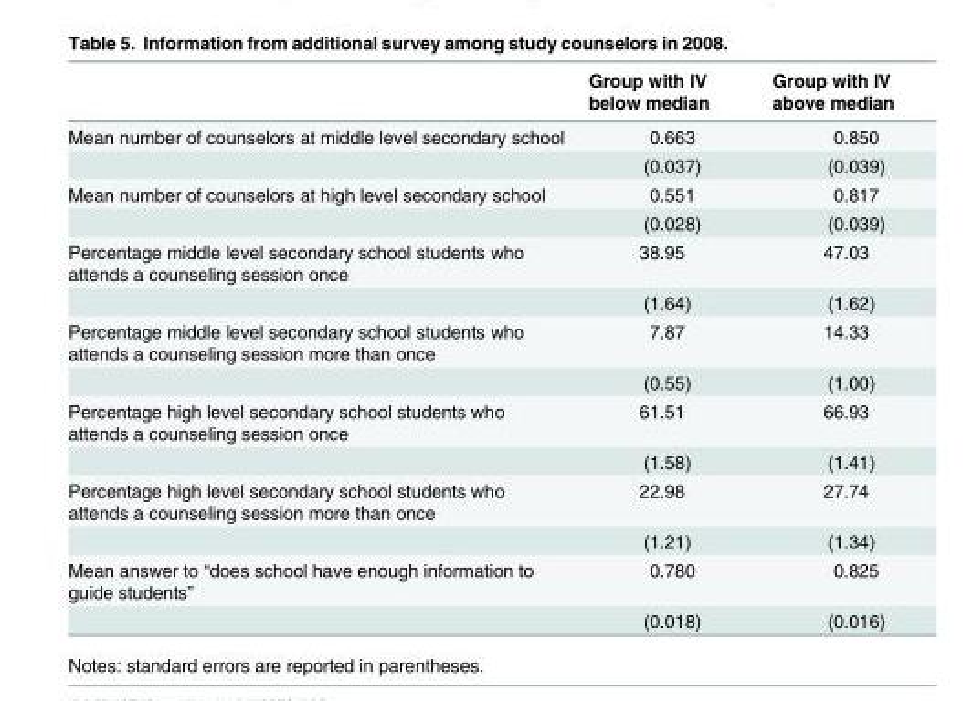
<table><thead><tr><td></td><td>Group with IV below median</td><td>Group with IV above median</td></tr></thead><tbody><tr><td rowspan="2">Mean number of counselors at middle level secondary school</td><td>0.663</td><td>0.850</td></tr><tr><td>(0.037)</td><td>(0.039)</td></tr><tr><td rowspan="2">Mean number of counselors at high level secondary school</td><td>0.551</td><td>0.817</td></tr><tr><td>(0.028)</td><td>(0.039)</td></tr><tr><td rowspan="2">Percentage middle level secondary school students who attends a counseling session once</td><td>38.95</td><td>47.03</td></tr><tr><td>(1.64)</td><td>(1.62)</td></tr><tr><td rowspan="2">Percentage middle level secondary school students who attends a counseling session more than once</td><td>7.87</td><td>14.33</td></tr><tr><td>(0.55)</td><td>(1.00)</td></tr><tr><td rowspan="2">Percentage high level secondary school students who attends a counseling session once</td><td>61.51</td><td>66.93</td></tr><tr><td>(1.58)</td><td>(1.41)</td></tr><tr><td rowspan="2">Percentage high level secondary school students who attends a counseling session more than once</td><td>22.98</td><td>27.74</td></tr><tr><td>(1.21)</td><td>(1.34)</td></tr><tr><td rowspan="2">Mean answer to “does school have enough information to guide students”</td><td>0.780</td><td>0.825</td></tr><tr><td>(0.018)</td><td>(0.016)</td></tr></tbody></table>